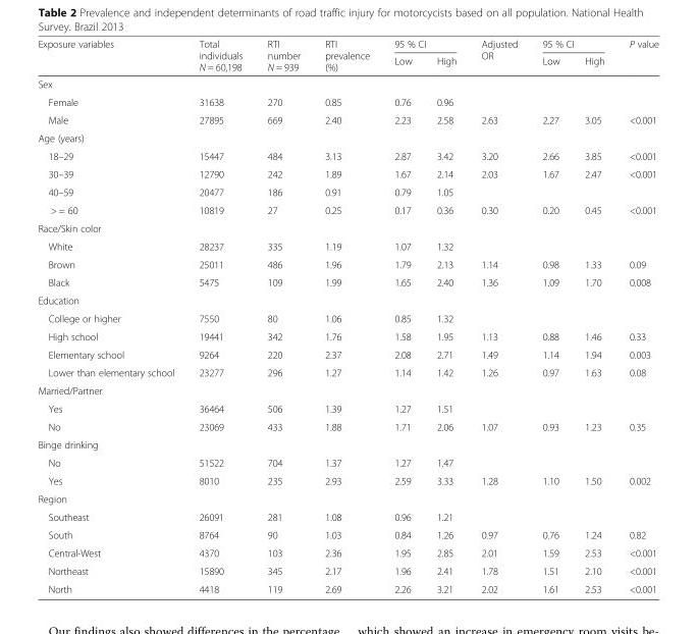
<table><thead><tr><td rowspan="2">Exposure variables</td><td rowspan="2">Total individuals N = 60,198</td><td rowspan="2">RTI number N = 939</td><td rowspan="2">RTI prevalence (%)</td><td colspan="2">95 % CI</td><td rowspan="2">Adjusted OR</td><td colspan="2">95 % CI</td><td rowspan="2">P value</td></tr><tr><td>Low</td><td>High</td><td>Low</td><td>High</td></tr></thead><tbody><tr><td colspan="10">Sex</td></tr><tr><td>Female</td><td>31638</td><td>270</td><td>0.85</td><td>0.76</td><td>0.96</td><td></td><td></td><td></td><td></td></tr><tr><td>Male</td><td>27895</td><td>669</td><td>2.40</td><td>2.23</td><td>2.58</td><td>2.63</td><td>2.27</td><td>3.05</td><td>&lt;0.001</td></tr><tr><td colspan="10">Age (years)</td></tr><tr><td>18–29</td><td>15447</td><td>484</td><td>3.13</td><td>2.87</td><td>3.42</td><td>3.20</td><td>2.66</td><td>3.85</td><td>&lt;0.001</td></tr><tr><td>30–39</td><td>12790</td><td>242</td><td>1.89</td><td>1.67</td><td>2.14</td><td>2.03</td><td>1.67</td><td>2.47</td><td>&lt;0.001</td></tr><tr><td>40–59</td><td>20477</td><td>186</td><td>0.91</td><td>0.79</td><td>1.05</td><td></td><td></td><td></td><td></td></tr><tr><td>&gt; = 60</td><td>10819</td><td>27</td><td>0.25</td><td>0.17</td><td>0.36</td><td>0.30</td><td>0.20</td><td>0.45</td><td>&lt;0.001</td></tr><tr><td colspan="10">Race/Skin color</td></tr><tr><td>White</td><td>28237</td><td>335</td><td>1.19</td><td>1.07</td><td>1.32</td><td></td><td></td><td></td><td></td></tr><tr><td>Brown</td><td>25011</td><td>486</td><td>1.96</td><td>1.79</td><td>2.13</td><td>1.14</td><td>0.98</td><td>1.33</td><td>0.09</td></tr><tr><td>Black</td><td>5475</td><td>109</td><td>1.99</td><td>1.65</td><td>2.40</td><td>1.36</td><td>1.09</td><td>1.70</td><td>0.008</td></tr><tr><td colspan="10">Education</td></tr><tr><td>College or higher</td><td>7550</td><td>80</td><td>1.06</td><td>0.85</td><td>1.32</td><td></td><td></td><td></td><td></td></tr><tr><td>High school</td><td>19441</td><td>342</td><td>1.76</td><td>1.58</td><td>1.95</td><td>1.13</td><td>0.88</td><td>1.46</td><td>0.33</td></tr><tr><td>Elementary school</td><td>9264</td><td>220</td><td>2.37</td><td>2.08</td><td>2.71</td><td>1.49</td><td>1.14</td><td>1.94</td><td>0.003</td></tr><tr><td>Lower than elementary school</td><td>23277</td><td>296</td><td>1.27</td><td>1.14</td><td>1.42</td><td>1.26</td><td>0.97</td><td>1.63</td><td>0.08</td></tr><tr><td colspan="10">Married/Partner</td></tr><tr><td>Yes</td><td>36464</td><td>506</td><td>1.39</td><td>1.27</td><td>1.51</td><td></td><td></td><td></td><td></td></tr><tr><td>No</td><td>23069</td><td>433</td><td>1.88</td><td>1.71</td><td>2.06</td><td>1.07</td><td>0.93</td><td>1.23</td><td>0.35</td></tr><tr><td colspan="10">Binge drinking</td></tr><tr><td>No</td><td>51522</td><td>704</td><td>1.37</td><td>1.27</td><td>1.47</td><td></td><td></td><td></td><td></td></tr><tr><td>Yes</td><td>8010</td><td>235</td><td>2.93</td><td>2.59</td><td>3.33</td><td>1.28</td><td>1.10</td><td>1.50</td><td>0.002</td></tr><tr><td colspan="10">Region</td></tr><tr><td>Southeast</td><td>26091</td><td>281</td><td>1.08</td><td>0.96</td><td>1.21</td><td></td><td></td><td></td><td></td></tr><tr><td>South</td><td>8764</td><td>90</td><td>1.03</td><td>0.84</td><td>1.26</td><td>0.97</td><td>0.76</td><td>1.24</td><td>0.82</td></tr><tr><td>Central-West</td><td>4370</td><td>103</td><td>2.36</td><td>1.95</td><td>2.85</td><td>2.01</td><td>1.59</td><td>2.53</td><td>&lt;0.001</td></tr><tr><td>Northeast</td><td>15890</td><td>345</td><td>2.17</td><td>1.96</td><td>2.41</td><td>1.78</td><td>1.51</td><td>2.10</td><td>&lt;0.001</td></tr><tr><td>North</td><td>4418</td><td>119</td><td>2.69</td><td>2.26</td><td>3.21</td><td>2.02</td><td>1.61</td><td>2.53</td><td>&lt;0.001</td></tr></tbody></table>